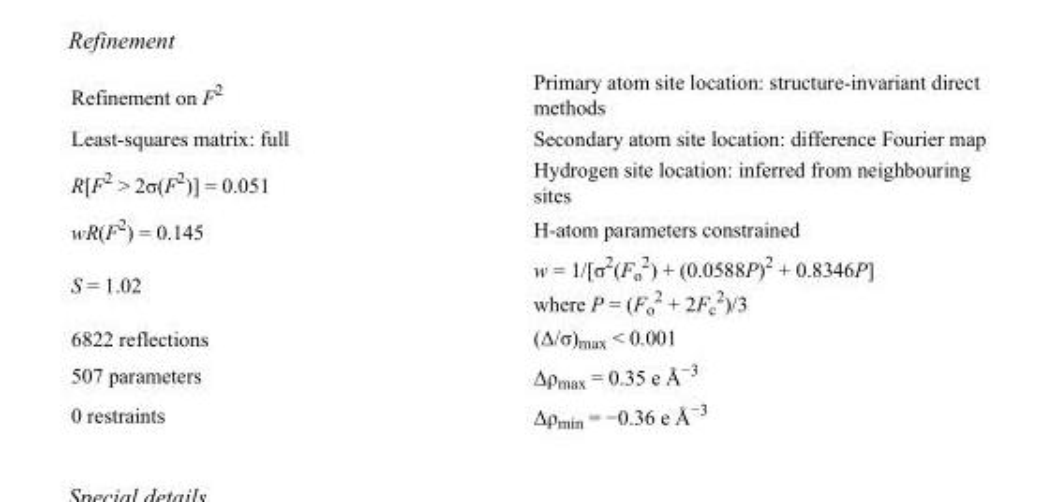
<table><tbody><tr><td>Refinement on F<sup>2</sup></td><td>Primary atom site location: structure-invariant direct methods</td></tr><tr><td>Least-squares matrix: full</td><td>Secondary atom site location: difference Fourier map</td></tr><tr><td>R[F<sup>2</sup> &gt; 2σ(F<sup>2</sup>)] = 0.051</td><td>Hydrogen site location: inferred from neighbouring sites</td></tr><tr><td>wR(F<sup>2</sup>) = 0.145</td><td>H-atom parameters constrained</td></tr><tr><td>S = 1.02</td><td>w = 1/[σ<sup>2</sup>(F<sub>o</sub> <sup>2</sup>) + (0.0588P)<sup>2</sup> + 0.8346P] where P = (F<sub>o</sub> <sup>2</sup> + 2F<sub>c</sub> <sup>2</sup>)/3</td></tr><tr><td>6822 reflections</td><td>(Δ/σ)<sub>max</sub> &lt; 0.001</td></tr><tr><td>507 parameters</td><td>Δρ<sub>max</sub> = 0.35 e Å<sup>−3</sup></td></tr><tr><td>0 restraints</td><td>Δρ<sub>min</sub> = −0.36 e Å<sup>−3</sup></td></tr></tbody></table>